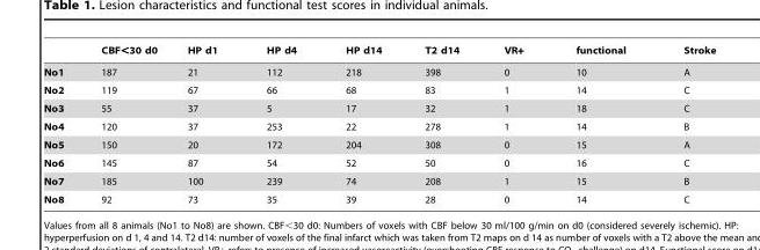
<table><thead><tr><td></td><td>CBF&lt;30 d0</td><td>HP d1</td><td>HP d4</td><td>HP d14</td><td>T2 d14</td><td>VR+</td><td>functional</td><td>Stroke</td></tr></thead><tbody><tr><td>No1</td><td>187</td><td>21</td><td>112</td><td>218</td><td>398</td><td>0</td><td>10</td><td>A</td></tr><tr><td>No2</td><td>119</td><td>67</td><td>66</td><td>68</td><td>83</td><td>1</td><td>14</td><td>C</td></tr><tr><td>No3</td><td>55</td><td>37</td><td>5</td><td>17</td><td>32</td><td>1</td><td>18</td><td>C</td></tr><tr><td>No4</td><td>120</td><td>37</td><td>253</td><td>22</td><td>278</td><td>1</td><td>14</td><td>B</td></tr><tr><td>No5</td><td>150</td><td>20</td><td>172</td><td>204</td><td>308</td><td>0</td><td>15</td><td>A</td></tr><tr><td>No6</td><td>145</td><td>87</td><td>54</td><td>52</td><td>50</td><td>0</td><td>16</td><td>C</td></tr><tr><td>No7</td><td>185</td><td>100</td><td>239</td><td>74</td><td>208</td><td>1</td><td>15</td><td>B</td></tr><tr><td>No8</td><td>92</td><td>73</td><td>35</td><td>39</td><td>28</td><td>0</td><td>14</td><td>C</td></tr></tbody></table>